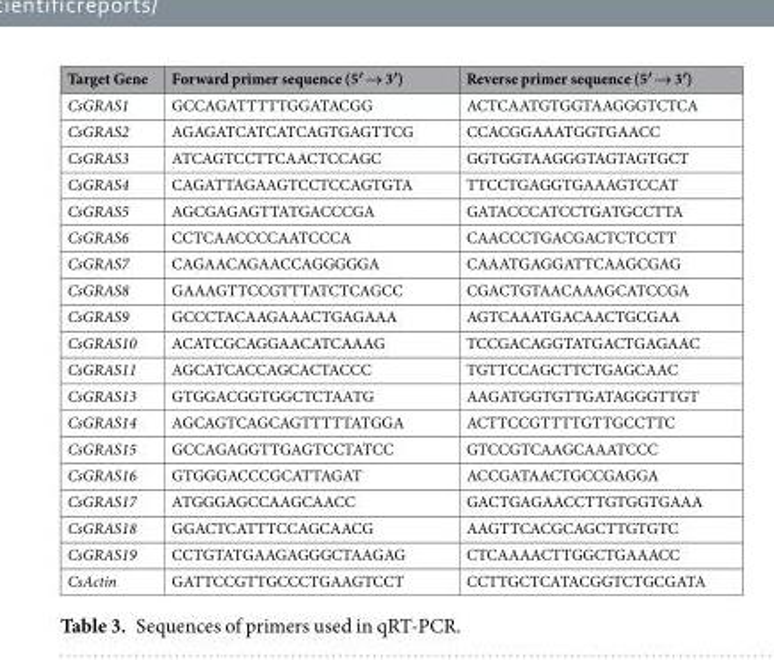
<table><thead><tr><td>Target Gene</td><td>Forward primer sequence (5′ → 3′)</td><td>Reverse primer sequence (5′ → 3′)</td></tr></thead><tbody><tr><td>CsGRAS1</td><td>GCCAGATTTTTGGATACGG</td><td>ACTCAATGTGGTAAGGGTCTCA</td></tr><tr><td>CsGRAS2</td><td>AGAGATCATCATCAGTGAGTTCG</td><td>CCACGGAAATGGTGAACC</td></tr><tr><td>CsGRAS3</td><td>ATCAGTCCTTCAACTCCAGC</td><td>GGTGGTAAGGGTAGTAGTGCT</td></tr><tr><td>CsGRAS4</td><td>CAGATTAGAAGTCCTCCAGTGTA</td><td>TTCCTGAGGTGAAAGTCCAT</td></tr><tr><td>CsGRAS5</td><td>AGCGAGAGTTATGACCCGA</td><td>GATACCCATCCTGATGCCTTA</td></tr><tr><td>CsGRAS6</td><td>CCTCAACCCCAATCCCA</td><td>CAACCCTGACGACTCTCCTT</td></tr><tr><td>CsGRAS7</td><td>CAGAACAGAACCAGGGGGA</td><td>CAAATGAGGATTCAAGCGAG</td></tr><tr><td>CsGRAS8</td><td>GAAAGTTCCGTTTATCTCAGCC</td><td>CGACTGTAACAAAGCATCCGA</td></tr><tr><td>CsGRAS9</td><td>GCCCTACAAGAAACTGAGAAA</td><td>AGTCAAATGACAACTGCGAA</td></tr><tr><td>CsGRAS10</td><td>ACATCGCAGGAACATCAAAG</td><td>TCCGACAGGTATGACTGAGAAC</td></tr><tr><td>CsGRAS11</td><td>AGCATCACCAGCACTACCC</td><td>TGTTCCAGCTTCTGAGCAAC</td></tr><tr><td>CsGRAS13</td><td>GTGGACGGTGGCTCTAATG</td><td>AAGATGGTGTTGATAGGGTTGT</td></tr><tr><td>CsGRAS14</td><td>AGCAGTCAGCAGTTTTTATGGA</td><td>ACTTCCGTTTTGTTGCCTTC</td></tr><tr><td>CsGRAS15</td><td>GCCAGAGGTTGAGTCCTATCC</td><td>GTCCGTCAAGCAAATCCC</td></tr><tr><td>CsGRAS16</td><td>GTGGGACCCGCATTAGAT</td><td>ACCGATAACTGCCGAGGA</td></tr><tr><td>CsGRAS17</td><td>ATGGGAGCCAAGCAACC</td><td>GACTGAGAACCTTGTGGTGAAA</td></tr><tr><td>CsGRAS18</td><td>GGACTCATTTCCAGCAACG</td><td>AAGTTCACGCAGCTTGTGTC</td></tr><tr><td>CsGRAS19</td><td>CCTGTATGAAGAGGGCTAAGAG</td><td>CTCAAAACTTGGCTGAAACC</td></tr><tr><td>CsActin</td><td>GATTCCGTTGCCCTGAAGTCCT</td><td>CCTTGCTCATACGGTCTGCGATA</td></tr></tbody></table>